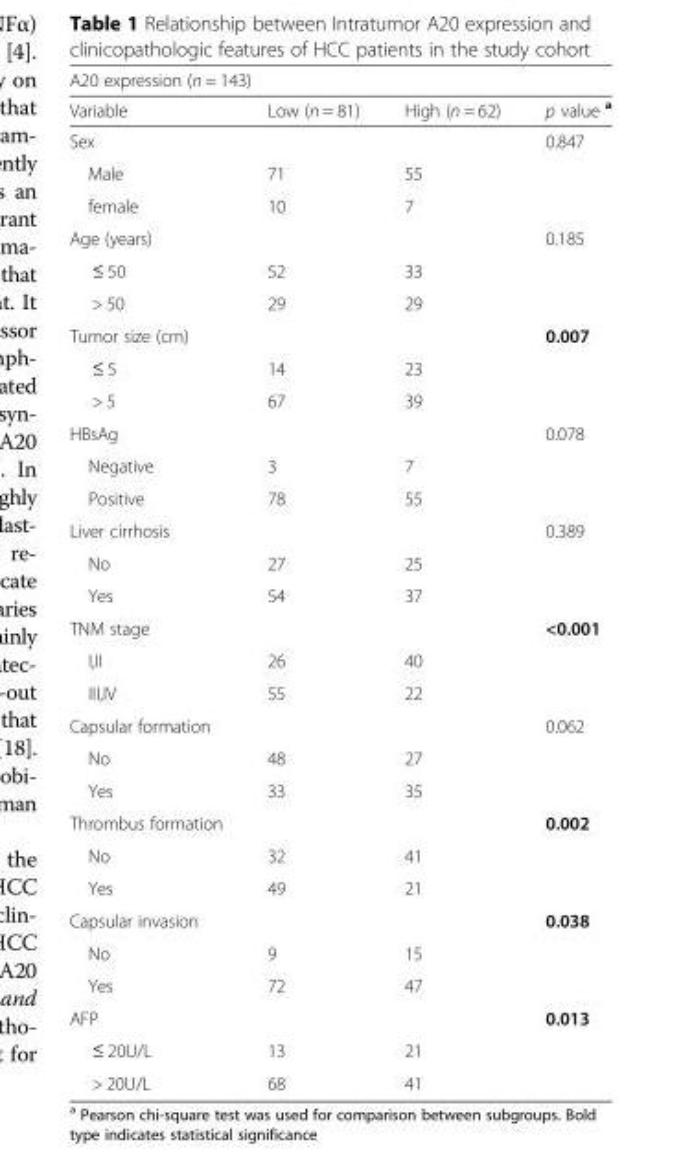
<table><thead><tr><td colspan="4">A20 expression (n = 143)</td></tr><tr><td>Variable</td><td>Low (n = 81)</td><td>High (n = 62)</td><td>p value <sup>a</sup></td></tr></thead><tbody><tr><td>Sex</td><td></td><td></td><td>0.847</td></tr><tr><td>Male</td><td>71</td><td>55</td><td rowspan="2"></td></tr><tr><td>female</td><td>10</td><td>7</td></tr><tr><td>Age (years)</td><td></td><td></td><td>0.185</td></tr><tr><td>≤ 50</td><td>52</td><td>33</td><td rowspan="2"></td></tr><tr><td>&gt; 50</td><td>29</td><td>29</td></tr><tr><td>Tumor size (cm)</td><td></td><td></td><td>0.007</td></tr><tr><td>≤ 5</td><td>14</td><td>23</td><td rowspan="2"></td></tr><tr><td>&gt; 5</td><td>67</td><td>39</td></tr><tr><td>HBsAg</td><td></td><td></td><td>0.078</td></tr><tr><td>Negative</td><td>3</td><td>7</td><td rowspan="2"></td></tr><tr><td>Positive</td><td>78</td><td>55</td></tr><tr><td>Liver cirrhosis</td><td></td><td></td><td>0.389</td></tr><tr><td>No</td><td>27</td><td>25</td><td rowspan="2"></td></tr><tr><td>Yes</td><td>54</td><td>37</td></tr><tr><td>TNM stage</td><td></td><td></td><td>&lt;0.001</td></tr><tr><td>I,II</td><td>26</td><td>40</td><td rowspan="2"></td></tr><tr><td>III,IV</td><td>55</td><td>22</td></tr><tr><td>Capsular formation</td><td></td><td></td><td>0.062</td></tr><tr><td>No</td><td>48</td><td>27</td><td rowspan="2"></td></tr><tr><td>Yes</td><td>33</td><td>35</td></tr><tr><td>Thrombus formation</td><td></td><td></td><td>0.002</td></tr><tr><td>No</td><td>32</td><td>41</td><td rowspan="2"></td></tr><tr><td>Yes</td><td>49</td><td>21</td></tr><tr><td>Capsular invasion</td><td></td><td></td><td>0.038</td></tr><tr><td>No</td><td>9</td><td>15</td><td rowspan="2"></td></tr><tr><td>Yes</td><td>72</td><td>47</td></tr><tr><td>AFP</td><td></td><td></td><td>0.013</td></tr><tr><td>≤ 20U/L</td><td>13</td><td>21</td><td rowspan="2"></td></tr><tr><td>&gt; 20U/L</td><td>68</td><td>41</td></tr></tbody></table>